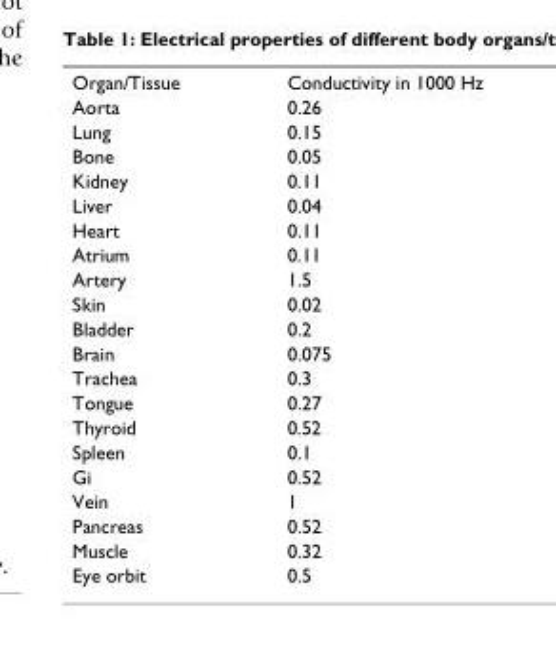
<table><tbody><tr><td>Organ/Tissue</td><td>Conductivity in 1000 Hz</td></tr><tr><td>Aorta</td><td>0.26</td></tr><tr><td>Lung</td><td>0.15</td></tr><tr><td>Bone</td><td>0.05</td></tr><tr><td>Kidney</td><td>0.11</td></tr><tr><td>Liver</td><td>0.04</td></tr><tr><td>Heart</td><td>0.11</td></tr><tr><td>Atrium</td><td>0.11</td></tr><tr><td>Artery</td><td>1.5</td></tr><tr><td>Skin</td><td>0.02</td></tr><tr><td>Bladder</td><td>0.2</td></tr><tr><td>Brain</td><td>0.075</td></tr><tr><td>Trachea</td><td>0.3</td></tr><tr><td>Tongue</td><td>0.27</td></tr><tr><td>Thyroid</td><td>0.52</td></tr><tr><td>Spleen</td><td>0.1</td></tr><tr><td>Gi</td><td>0.52</td></tr><tr><td>Vein</td><td>1</td></tr><tr><td>Pancreas</td><td>0.52</td></tr><tr><td>Muscle</td><td>0.32</td></tr><tr><td>Eye orbit</td><td>0.5</td></tr></tbody></table>